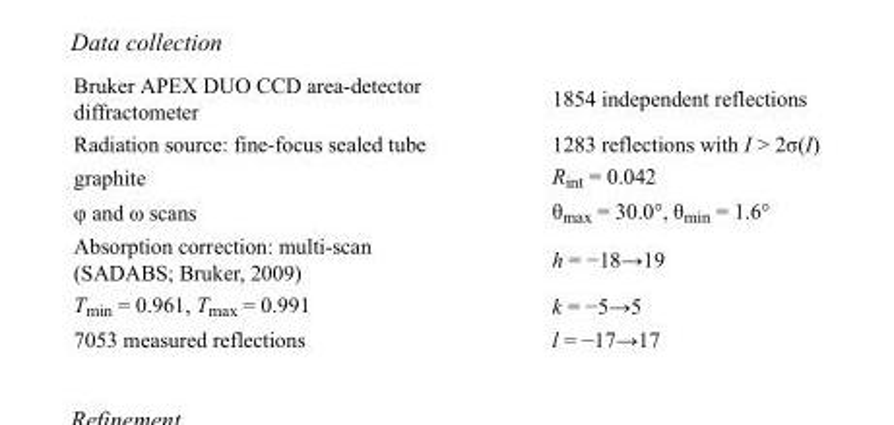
<table><tbody><tr><td>Bruker APEX DUO CCD area-detector diffractometer</td><td>1854 independent reflections</td></tr><tr><td>Radiation source: fine-focus sealed tube</td><td>1283 reflections with I &gt; 2σ(I)</td></tr><tr><td>graphite</td><td>R<sub>int</sub> = 0.042</td></tr><tr><td>φ and ω scans</td><td>θ<sub>max</sub> = 30.0°, θ<sub>min</sub> = 1.6°</td></tr><tr><td>Absorption correction: multi-scan (SADABS; Bruker, 2009)</td><td>h = −18→19</td></tr><tr><td>T<sub>min</sub> = 0.961, T<sub>max</sub> = 0.991</td><td>k = −5→5</td></tr><tr><td>7053 measured reflections</td><td>l = −17→17</td></tr></tbody></table>